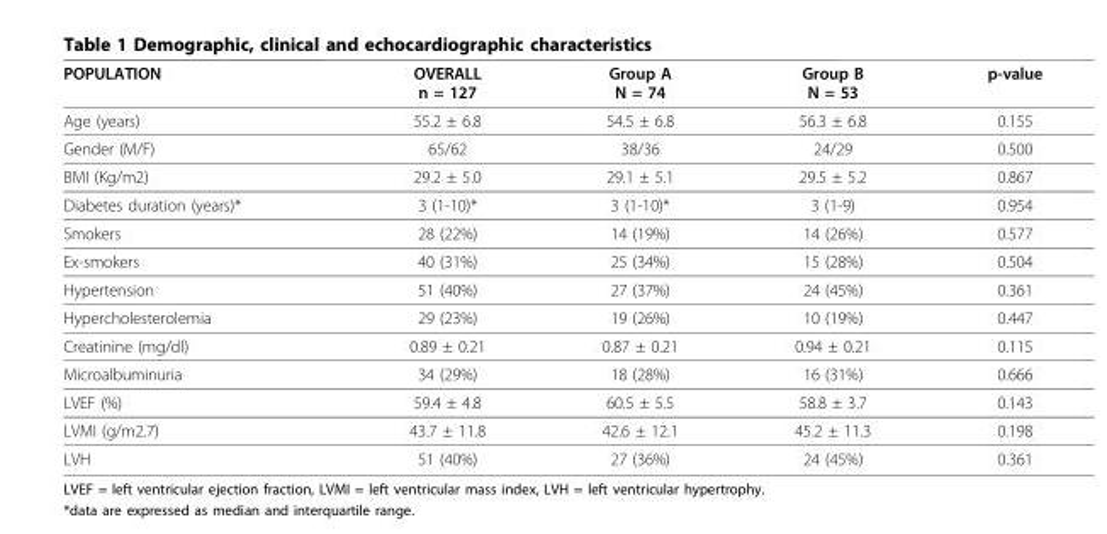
<table><thead><tr><td>POPULATION</td><td>OVERALL n = 127</td><td>Group A N = 74</td><td>Group B N = 53</td><td>p-value</td></tr></thead><tbody><tr><td>Age (years)</td><td>55.2 ± 6.8</td><td>54.5 ± 6.8</td><td>56.3 ± 6.8</td><td>0.155</td></tr><tr><td>Gender (M/F)</td><td>65/62</td><td>38/36</td><td>24/29</td><td>0.500</td></tr><tr><td>BMI (Kg/m2)</td><td>29.2 ± 5.0</td><td>29.1 ± 5.1</td><td>29.5 ± 5.2</td><td>0.867</td></tr><tr><td>Diabetes duration (years)*</td><td>3 (1-10)*</td><td>3 (1-10)*</td><td>3 (1-9)</td><td>0.954</td></tr><tr><td>Smokers</td><td>28 (22%)</td><td>14 (19%)</td><td>14 (26%)</td><td>0.577</td></tr><tr><td>Ex-smokers</td><td>40 (31%)</td><td>25 (34%)</td><td>15 (28%)</td><td>0.504</td></tr><tr><td>Hypertension</td><td>51 (40%)</td><td>27 (37%)</td><td>24 (45%)</td><td>0.361</td></tr><tr><td>Hypercholesterolemia</td><td>29 (23%)</td><td>19 (26%)</td><td>10 (19%)</td><td>0.447</td></tr><tr><td>Creatinine (mg/dl)</td><td>0.89 ± 0.21</td><td>0.87 ± 0.21</td><td>0.94 ± 0.21</td><td>0.115</td></tr><tr><td>Microalbuminuria</td><td>34 (29%)</td><td>18 (28%)</td><td>16 (31%)</td><td>0.666</td></tr><tr><td>LVEF (%)</td><td>59.4 ± 4.8</td><td>60.5 ± 5.5</td><td>58.8 ± 3.7</td><td>0.143</td></tr><tr><td>LVMI (g/m2.7)</td><td>43.7 ± 11.8</td><td>42.6 ± 12.1</td><td>45.2 ± 11.3</td><td>0.198</td></tr><tr><td>LVH</td><td>51 (40%)</td><td>27 (36%)</td><td>24 (45%)</td><td>0.361</td></tr></tbody></table>